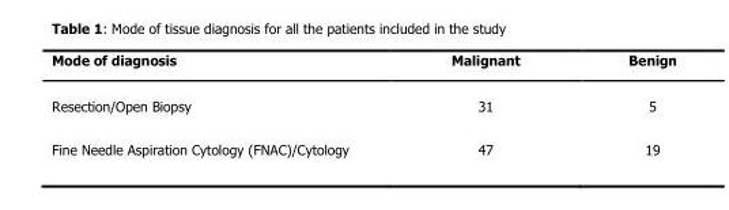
<table><thead><tr><td>Mode of diagnosis</td><td>Malignant</td><td>Benign</td></tr></thead><tbody><tr><td>Resection/Open Biopsy</td><td>31</td><td>5</td></tr><tr><td>Fine Needle Aspiration Cytology (FNAC)/Cytology</td><td>47</td><td>19</td></tr></tbody></table>